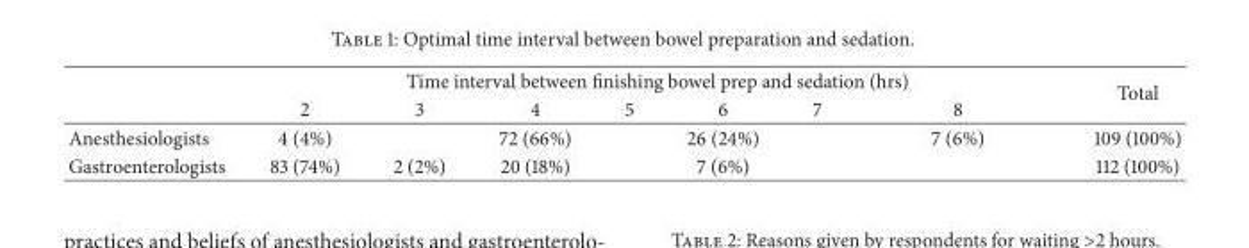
<table><thead><tr><td rowspan="2"></td><td colspan="7">Time interval between finishing bowel prep and sedation (hrs)</td><td rowspan="2">Total</td></tr><tr><td>2</td><td>3</td><td>4</td><td>5</td><td>6</td><td>7</td><td>8</td></tr></thead><tbody><tr><td>Anesthesiologists</td><td>4 (4%)</td><td></td><td>72 (66%)</td><td></td><td>26 (24%)</td><td></td><td>7 (6%)</td><td>109 (100%)</td></tr><tr><td>Gastroenterologists</td><td>83 (74%)</td><td>2 (2%)</td><td>20 (18%)</td><td></td><td>7 (6%)</td><td></td><td></td><td>112 (100%)</td></tr></tbody></table>